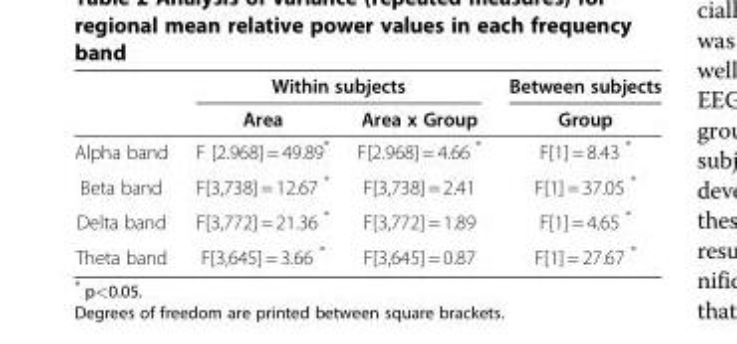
<table><thead><tr><td rowspan="2"></td><td colspan="2">Within subjects</td><td rowspan="2">Between subjects Group</td></tr><tr><td>Area</td><td>Area x Group</td></tr></thead><tbody><tr><td>Alpha band</td><td>F [2.968] = 49.89*</td><td>F[2.968] = 4.66 *</td><td>F[1] = 8.43 *</td></tr><tr><td>Beta band</td><td>F[3,738] = 12.67 *</td><td>F[3,738] = 2.41</td><td>F[1] = 37.05 *</td></tr><tr><td>Delta band</td><td>F[3,772] = 21.36 *</td><td>F[3,772] = 1.89</td><td>F[1] = 4.65 *</td></tr><tr><td>Theta band</td><td>F[3,645] = 3.66 *</td><td>F[3,645] = 0.87</td><td>F[1] = 27.67 *</td></tr></tbody></table>